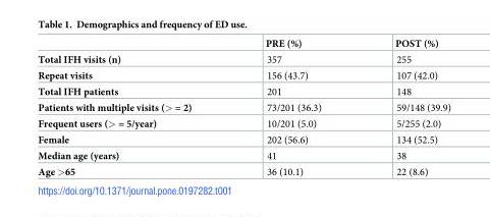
<table><thead><tr><td></td><td>PRE (%)</td><td>POST (%)</td></tr></thead><tbody><tr><td>Total IFH visits (n)</td><td>357</td><td>255</td></tr><tr><td>Repeat visits</td><td>156 (43.7)</td><td>107 (42.0)</td></tr><tr><td>Total IFH patients</td><td>201</td><td>148</td></tr><tr><td>Patients with multiple visits (&gt; = 2)</td><td>73/201 (36.3)</td><td>59/148 (39.9)</td></tr><tr><td>Frequent users (&gt; = 5/year)</td><td>10/201 (5.0)</td><td>5/255 (2.0)</td></tr><tr><td>Female</td><td>202 (56.6)</td><td>134 (52.5)</td></tr><tr><td>Median age (years)</td><td>41</td><td>38</td></tr><tr><td>Age &gt;65</td><td>36 (10.1)</td><td>22 (8.6)</td></tr></tbody></table>